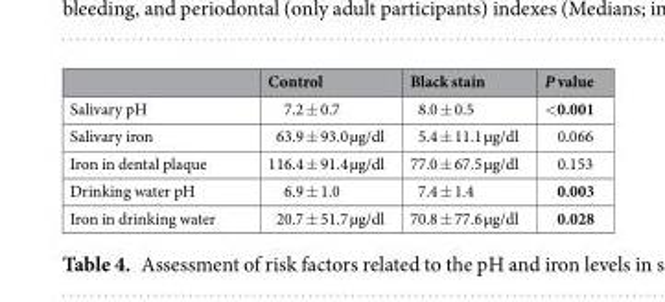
<table><thead><tr><td></td><td>Control</td><td>Black stain</td><td>P value</td></tr></thead><tbody><tr><td>Salivary pH</td><td>7.2 ± 0.7</td><td>8.0 ± 0.5</td><td>&lt;0.001</td></tr><tr><td>Salivary iron</td><td>63.9 ± 93.0 µg/dl</td><td>5.4 ± 11.1 µg/dl</td><td>0.066</td></tr><tr><td>Iron in dental plaque</td><td>116.4 ± 91.4 µg/dl</td><td>77.0 ± 67.5 µg/dl</td><td>0.153</td></tr><tr><td>Drinking water pH</td><td>6.9 ± 1.0</td><td>7.4 ± 1.4</td><td>0.003</td></tr><tr><td>Iron in drinking water</td><td>20.7 ± 51.7 µg/dl</td><td>70.8 ± 77.6 µg/dl</td><td>0.028</td></tr></tbody></table>